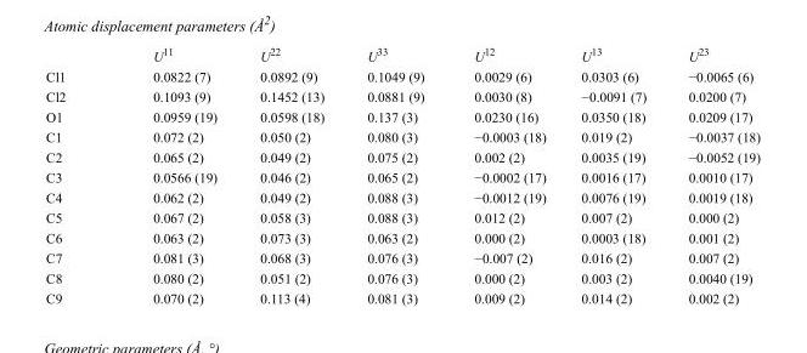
<table><thead><tr><td></td><td>U<sup>11</sup></td><td>U<sup>22</sup></td><td>U<sup>33</sup></td><td>U<sup>12</sup></td><td>U<sup>13</sup></td><td>U<sup>23</sup></td></tr></thead><tbody><tr><td>Cl1</td><td>0.0822 (7)</td><td>0.0892 (9)</td><td>0.1049 (9)</td><td>0.0029 (6)</td><td>0.0303 (6)</td><td>−0.0065 (6)</td></tr><tr><td>Cl2</td><td>0.1093 (9)</td><td>0.1452 (13)</td><td>0.0881 (9)</td><td>0.0030 (8)</td><td>−0.0091 (7)</td><td>0.0200 (7)</td></tr><tr><td>O1</td><td>0.0959 (19)</td><td>0.0598 (18)</td><td>0.137 (3)</td><td>0.0230 (16)</td><td>0.0350 (18)</td><td>0.0209 (17)</td></tr><tr><td>C1</td><td>0.072 (2)</td><td>0.050 (2)</td><td>0.080 (3)</td><td>−0.0003 (18)</td><td>0.019 (2)</td><td>−0.0037 (18)</td></tr><tr><td>C2</td><td>0.065 (2)</td><td>0.049 (2)</td><td>0.075 (2)</td><td>0.002 (2)</td><td>0.0035 (19)</td><td>−0.0052 (19)</td></tr><tr><td>C3</td><td>0.0566 (19)</td><td>0.046 (2)</td><td>0.065 (2)</td><td>−0.0002 (17)</td><td>0.0016 (17)</td><td>0.0010 (17)</td></tr><tr><td>C4</td><td>0.062 (2)</td><td>0.049 (2)</td><td>0.088 (3)</td><td>−0.0012 (19)</td><td>0.0076 (19)</td><td>0.0019 (18)</td></tr><tr><td>C5</td><td>0.067 (2)</td><td>0.058 (3)</td><td>0.088 (3)</td><td>0.012 (2)</td><td>0.007 (2)</td><td>0.000 (2)</td></tr><tr><td>C6</td><td>0.063 (2)</td><td>0.073 (3)</td><td>0.063 (2)</td><td>0.000 (2)</td><td>0.0003 (18)</td><td>0.001 (2)</td></tr><tr><td>C7</td><td>0.081 (3)</td><td>0.068 (3)</td><td>0.076 (3)</td><td>−0.007 (2)</td><td>0.016 (2)</td><td>0.007 (2)</td></tr><tr><td>C8</td><td>0.080 (2)</td><td>0.051 (2)</td><td>0.076 (3)</td><td>0.000 (2)</td><td>0.003 (2)</td><td>0.0040 (19)</td></tr><tr><td>C9</td><td>0.070 (2)</td><td>0.113 (4)</td><td>0.081 (3)</td><td>0.009 (2)</td><td>0.014 (2)</td><td>0.002 (2)</td></tr></tbody></table>